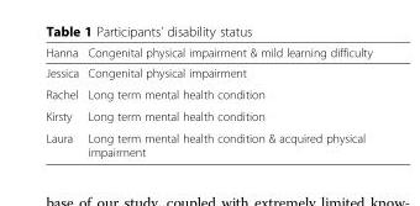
<table><thead><tr><td>Hanna</td><td>Congenital physical impairment &amp; mild learning difficulty</td></tr></thead><tbody><tr><td>Jessica</td><td>Congenital physical impairment</td></tr><tr><td>Rachel</td><td>Long term mental health condition</td></tr><tr><td>Kirsty</td><td>Long term mental health condition</td></tr><tr><td>Laura</td><td>Long term mental health condition &amp; acquired physical impairment</td></tr></tbody></table>